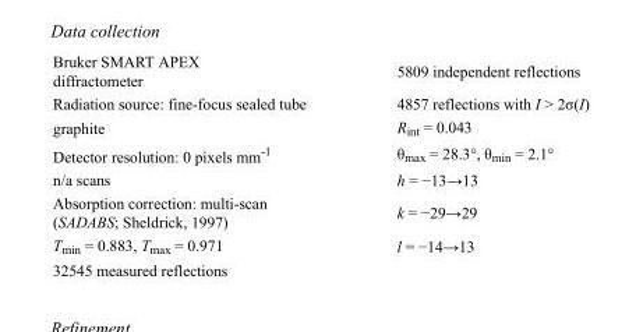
<table><tbody><tr><td>Bruker SMART APEX diffractometer</td><td>5809 independent reflections</td></tr><tr><td>Radiation source: fine-focus sealed tube</td><td>4857 reflections with I &gt; 2σ(I)</td></tr><tr><td>graphite</td><td>R<sub>int</sub> = 0.043</td></tr><tr><td>Detector resolution: 0 pixels mm<sup>-1</sup></td><td>θ<sub>max</sub> = 28.3°, θ<sub>min</sub> = 2.1°</td></tr><tr><td>n/a scans</td><td>h = −13→13</td></tr><tr><td>Absorption correction: multi-scan (SADABS; Sheldrick, 1997)</td><td>k = −29→29</td></tr><tr><td>T<sub>min</sub> = 0.883, T<sub>max</sub> = 0.971</td><td>l = −14→13</td></tr><tr><td>32545 measured reflections</td><td></td></tr></tbody></table>